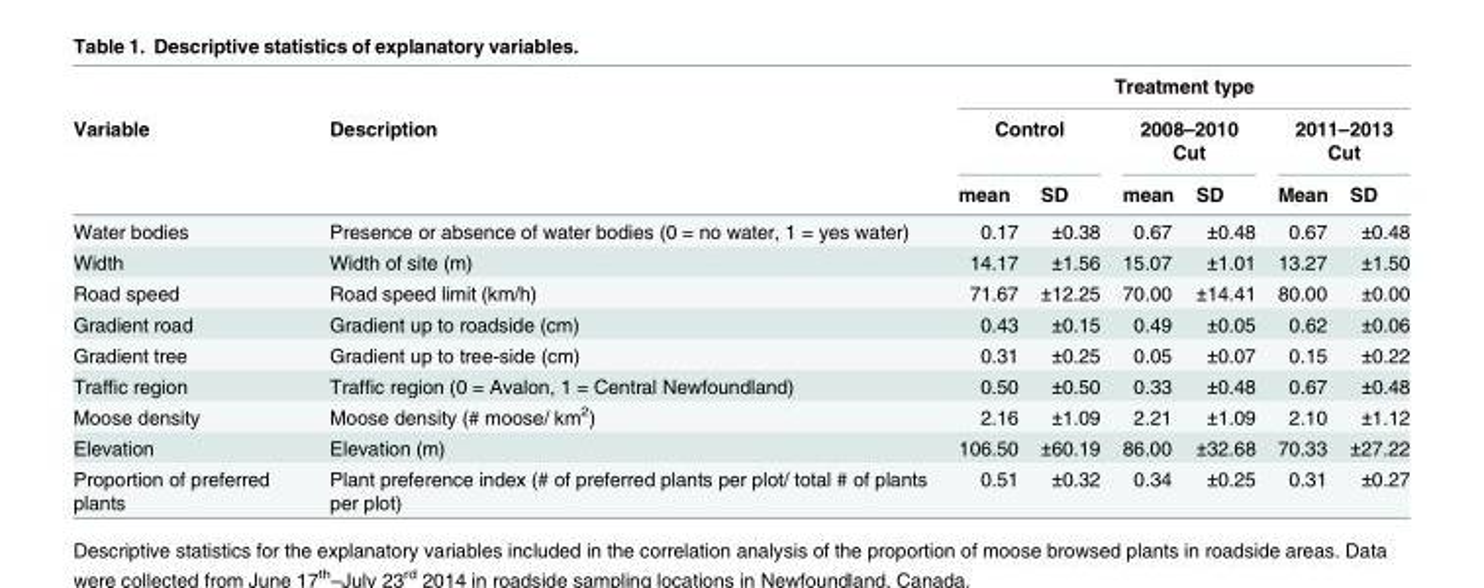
<table><thead><tr><td rowspan="3">Variable</td><td rowspan="3">Description</td><td colspan="6">Treatment type</td></tr><tr><td colspan="2">Control</td><td colspan="2">2008–2010 Cut</td><td colspan="2">2011–2013 Cut</td></tr><tr><td>mean</td><td>SD</td><td>mean</td><td>SD</td><td>Mean</td><td>SD</td></tr></thead><tbody><tr><td>Water bodies</td><td>Presence or absence of water bodies (0 = no water, 1 = yes water)</td><td>0.17</td><td>±0.38</td><td>0.67</td><td>±0.48</td><td>0.67</td><td>±0.48</td></tr><tr><td>Width</td><td>Width of site (m)</td><td>14.17</td><td>±1.56</td><td>15.07</td><td>±1.01</td><td>13.27</td><td>±1.50</td></tr><tr><td>Road speed</td><td>Road speed limit (km/h)</td><td>71.67</td><td>±12.25</td><td>70.00</td><td>±14.41</td><td>80.00</td><td>±0.00</td></tr><tr><td>Gradient road</td><td>Gradient up to roadside (cm)</td><td>0.43</td><td>±0.15</td><td>0.49</td><td>±0.05</td><td>0.62</td><td>±0.06</td></tr><tr><td>Gradient tree</td><td>Gradient up to tree-side (cm)</td><td>0.31</td><td>±0.25</td><td>0.05</td><td>±0.07</td><td>0.15</td><td>±0.22</td></tr><tr><td>Traffic region</td><td>Traffic region (0 = Avalon, 1 = Central Newfoundland)</td><td>0.50</td><td>±0.50</td><td>0.33</td><td>±0.48</td><td>0.67</td><td>±0.48</td></tr><tr><td>Moose density</td><td>Moose density (# moose/ km<sup>2</sup>)</td><td>2.16</td><td>±1.09</td><td>2.21</td><td>±1.09</td><td>2.10</td><td>±1.12</td></tr><tr><td>Elevation</td><td>Elevation (m)</td><td>106.50</td><td>±60.19</td><td>86.00</td><td>±32.68</td><td>70.33</td><td>±27.22</td></tr><tr><td>Proportion of preferred plants</td><td>Plant preference index (# of preferred plants per plot/ total # of plants per plot)</td><td>0.51</td><td>±0.32</td><td>0.34</td><td>±0.25</td><td>0.31</td><td>±0.27</td></tr></tbody></table>